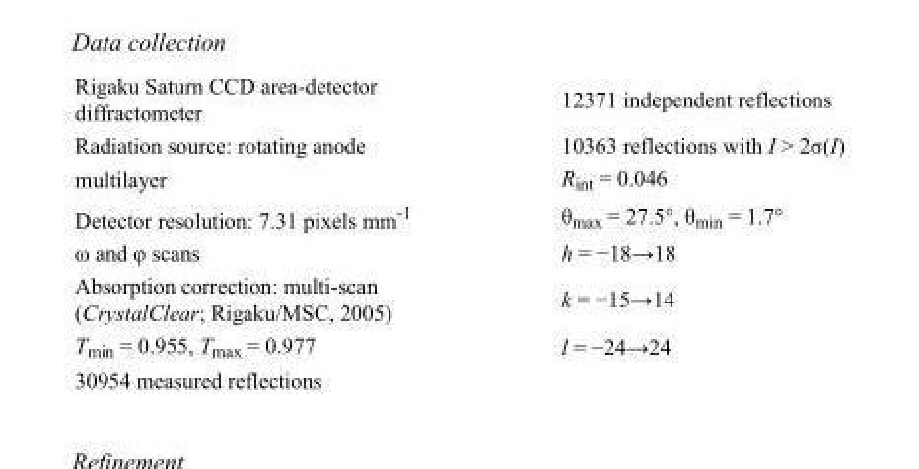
<table><tbody><tr><td>Rigaku Saturn CCD area-detector diffractometer</td><td>12371 independent reflections</td></tr><tr><td>Radiation source: rotating anode</td><td>10363 reflections with I &gt; 2σ(I)</td></tr><tr><td>multilayer</td><td>R<sub>int</sub> = 0.046</td></tr><tr><td>Detector resolution: 7.31 pixels mm<sup>-1</sup></td><td>θ<sub>max</sub> = 27.5°, θ<sub>min</sub> = 1.7°</td></tr><tr><td>ω and φ scans</td><td>h = −18→18</td></tr><tr><td>Absorption correction: multi-scan (CrystalClear; Rigaku/MSC, 2005)</td><td>k = −15→14</td></tr><tr><td>T<sub>min</sub> = 0.955, T<sub>max</sub> = 0.977</td><td>l = −24→24</td></tr><tr><td>30954 measured reflections</td><td></td></tr></tbody></table>